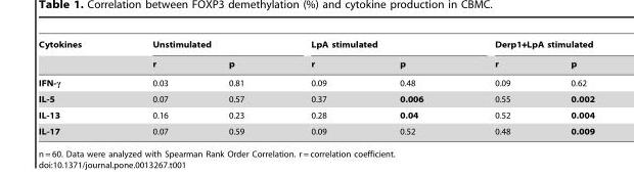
<table><thead><tr><td rowspan="2">Cytokines</td><td colspan="2">Unstimulated</td><td colspan="2">LpA stimulated</td><td colspan="2">Derp1+LpA stimulated</td></tr><tr><td>r</td><td>p</td><td>r</td><td>p</td><td>r</td><td>p</td></tr></thead><tbody><tr><td>IFN-γ</td><td>0.03</td><td>0.81</td><td>0.09</td><td>0.48</td><td>0.09</td><td>0.62</td></tr><tr><td>IL-5</td><td>0.07</td><td>0.57</td><td>0.37</td><td>0.006</td><td>0.55</td><td>0.002</td></tr><tr><td>IL-13</td><td>0.16</td><td>0.23</td><td>0.28</td><td>0.04</td><td>0.52</td><td>0.004</td></tr><tr><td>IL-17</td><td>0.07</td><td>0.59</td><td>0.09</td><td>0.52</td><td>0.48</td><td>0.009</td></tr></tbody></table>